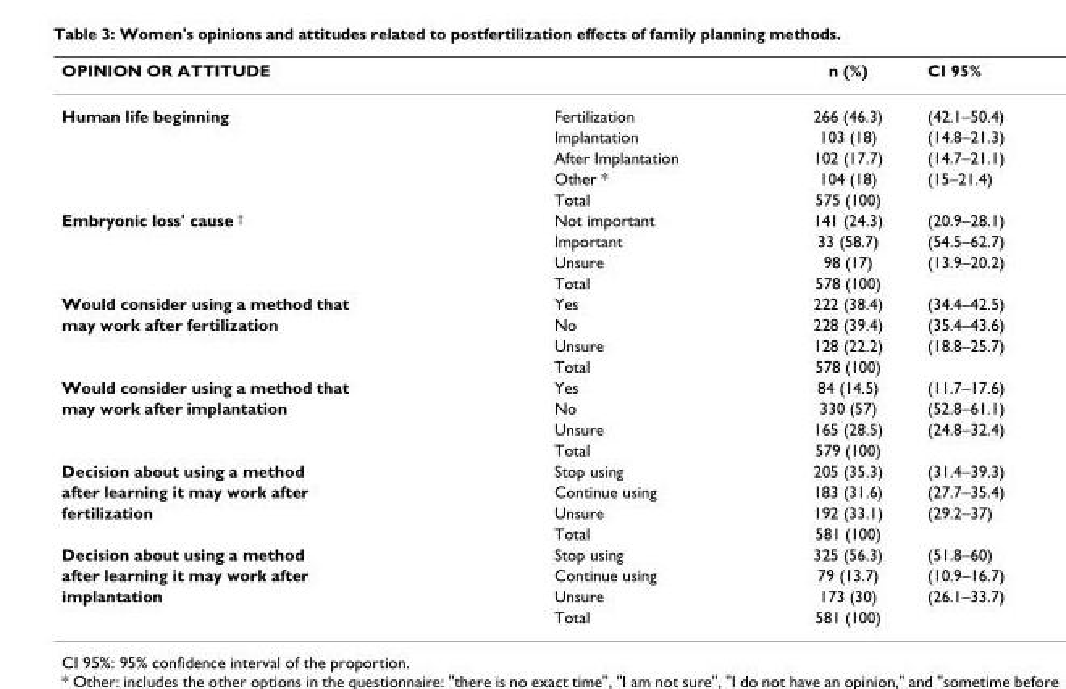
<table><thead><tr><td colspan="2">OPINION OR ATTITUDE</td><td rowspan="2">n (%) 266 (46.3)</td><td rowspan="2">CI 95% (42.1–50.4)</td></tr><tr><td>Human life beginning</td><td>Fertilization</td></tr></thead><tbody><tr><td></td><td>Implantation</td><td>103 (18)</td><td>(14.8–21.3)</td></tr><tr><td></td><td>After Implantation</td><td>102 (17.7)</td><td>(14.7–21.1)</td></tr><tr><td></td><td>Other *</td><td>104 (18)</td><td>(15–21.4)</td></tr><tr><td></td><td>Total</td><td>575 (100)</td><td></td></tr><tr><td rowspan="4">Embryonic loss&#x27; cause <sup>†</sup></td><td>Not important</td><td>141 (24.3)</td><td>(20.9–28.1)</td></tr><tr><td>Important</td><td>33 (58.7)</td><td>(54.5–62.7)</td></tr><tr><td>Unsure</td><td>98 (17)</td><td>(13.9–20.2)</td></tr><tr><td>Total</td><td>578 (100)</td><td></td></tr><tr><td>Would consider using a method that</td><td>Yes</td><td>222 (38.4)</td><td>(34.4–42.5)</td></tr><tr><td rowspan="3">may work after fertilization</td><td>No</td><td>228 (39.4)</td><td>(35.4–43.6)</td></tr><tr><td>Unsure</td><td>128 (22.2)</td><td>(18.8–25.7)</td></tr><tr><td>Total</td><td>578 (100)</td><td></td></tr><tr><td>Would consider using a method that</td><td>Yes</td><td>84 (14.5)</td><td>(11.7–17.6)</td></tr><tr><td rowspan="3">may work after implantation</td><td>No</td><td>330 (57)</td><td>(52.8–61.1)</td></tr><tr><td>Unsure</td><td>165 (28.5)</td><td>(24.8–32.4)</td></tr><tr><td>Total</td><td>579 (100)</td><td></td></tr><tr><td>Decision about using a method</td><td>Stop using</td><td>205 (35.3)</td><td>(31.4–39.3)</td></tr><tr><td>after learning it may work after</td><td>Continue using</td><td>183 (31.6)</td><td>(27.7–35.4)</td></tr><tr><td rowspan="2">fertilization</td><td>Unsure</td><td>192 (33.1)</td><td>(29.2–37)</td></tr><tr><td>Total</td><td>581 (100)</td><td></td></tr><tr><td>Decision about using a method</td><td>Stop using</td><td>325 (56.3)</td><td>(51.8–60)</td></tr><tr><td>after learning it may work after</td><td>Continue using</td><td>79 (13.7)</td><td>(10.9–16.7)</td></tr><tr><td rowspan="2">implantation</td><td>Unsure</td><td>173 (30)</td><td>(26.1–33.7)</td></tr><tr><td>Total</td><td>581 (100)</td><td></td></tr></tbody></table>